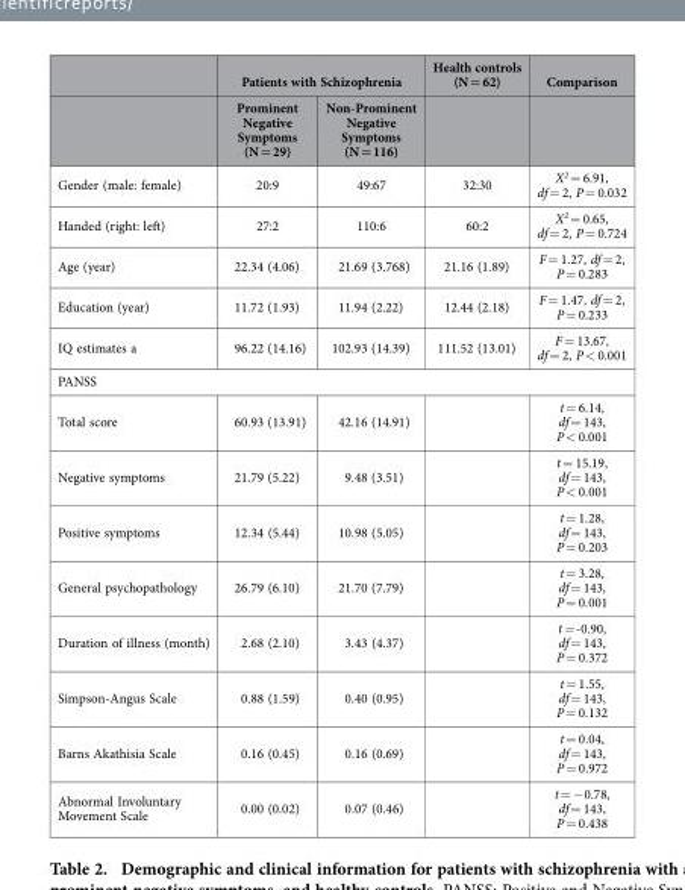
<table><thead><tr><td rowspan="2"></td><td colspan="2">Patients with Schizophrenia</td><td rowspan="2">Health controls (N = 62)</td><td rowspan="2">Comparison</td></tr><tr><td>Prominent Negative Symptoms (N = 29)</td><td>Non-Prominent Negative Symptoms (N = 116)</td></tr></thead><tbody><tr><td>Gender (male: female)</td><td>20:9</td><td>49:67</td><td>32:30</td><td>X<sup>2</sup> = 6.91, df = 2, P = 0.032</td></tr><tr><td>Handed (right: left)</td><td>27:2</td><td>110:6</td><td>60:2</td><td>X<sup>2</sup> = 0.65, df = 2, P = 0.724</td></tr><tr><td>Age (year)</td><td>22.34 (4.06)</td><td>21.69 (3.768)</td><td>21.16 (1.89)</td><td>F = 1.27, df = 2, P = 0.283</td></tr><tr><td>Education (year)</td><td>11.72 (1.93)</td><td>11.94 (2.22)</td><td>12.44 (2.18)</td><td>F = 1.47, df = 2, P = 0.233</td></tr><tr><td>IQ estimates a</td><td>96.22 (14.16)</td><td>102.93 (14.39)</td><td>111.52 (13.01)</td><td>F = 13.67, df = 2, P &lt; 0.001</td></tr><tr><td colspan="5">PANSS</td></tr><tr><td>Total score</td><td>60.93 (13.91)</td><td>42.16 (14.91)</td><td></td><td>t = 6.14, df = 143, P &lt; 0.001</td></tr><tr><td>Negative symptoms</td><td>21.79 (5.22)</td><td>9.48 (3.51)</td><td></td><td>t = 15.19, df = 143, P &lt; 0.001</td></tr><tr><td>Positive symptoms</td><td>12.34 (5.44)</td><td>10.98 (5.05)</td><td></td><td>t = 1.28, df = 143, P = 0.203</td></tr><tr><td>General psychopathology</td><td>26.79 (6.10)</td><td>21.70 (7.79)</td><td></td><td>t = 3.28, df = 143, P = 0.001</td></tr><tr><td>Duration of illness (month)</td><td>2.68 (2.10)</td><td>3.43 (4.37)</td><td></td><td>t = -0.90, df = 143, P = 0.372</td></tr><tr><td>Simpson-Angus Scale</td><td>0.88 (1.59)</td><td>0.40 (0.95)</td><td></td><td>t = 1.55, df = 143, P = 0.132</td></tr><tr><td>Barns Akathisia Scale</td><td>0.16 (0.45)</td><td>0.16 (0.69)</td><td></td><td>t = 0.04, df = 143, P = 0.972</td></tr><tr><td>Abnormal Involuntary Movement Scale</td><td>0.00 (0.02)</td><td>0.07 (0.46)</td><td></td><td>t = − 0.78, df = 143, P = 0.438</td></tr></tbody></table>